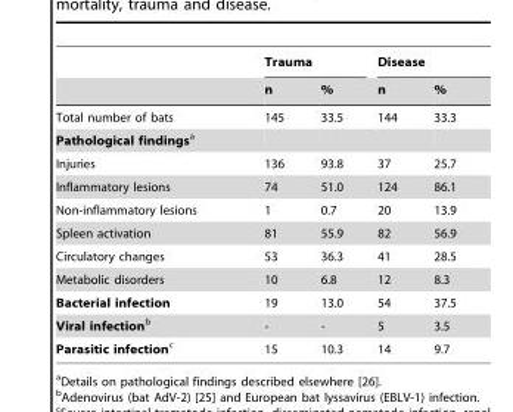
<table><thead><tr><td rowspan="2"></td><td colspan="2">Trauma</td><td colspan="2">Disease</td></tr><tr><td>n</td><td>%</td><td>n</td><td>%</td></tr></thead><tbody><tr><td>Total number of bats</td><td>145</td><td>33.5</td><td>144</td><td>33.3</td></tr><tr><td colspan="5">Pathological findingsa</td></tr><tr><td>Injuries</td><td>136</td><td>93.8</td><td>37</td><td>25.7</td></tr><tr><td>Inflammatory lesions</td><td>74</td><td>51.0</td><td>124</td><td>86.1</td></tr><tr><td>Non-inflammatory lesions</td><td>1</td><td>0.7</td><td>20</td><td>13.9</td></tr><tr><td>Spleen activation</td><td>81</td><td>55.9</td><td>82</td><td>56.9</td></tr><tr><td>Circulatory changes</td><td>53</td><td>36.3</td><td>41</td><td>28.5</td></tr><tr><td>Metabolic disorders</td><td>10</td><td>6.8</td><td>12</td><td>8.3</td></tr><tr><td>Bacterial infection</td><td>19</td><td>13.0</td><td>54</td><td>37.5</td></tr><tr><td>Viral infectionb</td><td>-</td><td>-</td><td>5</td><td>3.5</td></tr><tr><td>Parasitic infectionc</td><td>15</td><td>10.3</td><td>14</td><td>9.7</td></tr></tbody></table>